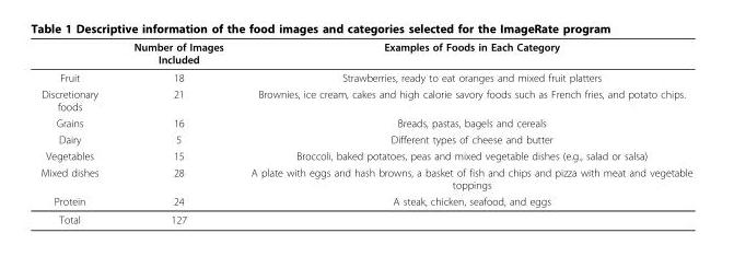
<table><thead><tr><td></td><td>Number of Images Included</td><td>Examples of Foods in Each Category</td></tr></thead><tbody><tr><td>Fruit</td><td>18</td><td>Strawberries, ready to eat oranges and mixed fruit platters</td></tr><tr><td>Discretionary foods</td><td>21</td><td>Brownies, ice cream, cakes and high calorie savory foods such as French fries, and potato chips.</td></tr><tr><td>Grains</td><td>16</td><td>Breads, pastas, bagels and cereals</td></tr><tr><td>Dairy</td><td>5</td><td>Different types of cheese and butter</td></tr><tr><td>Vegetables</td><td>15</td><td>Broccoli, baked potatoes, peas and mixed vegetable dishes (e.g., salad or salsa)</td></tr><tr><td>Mixed dishes</td><td>28</td><td>A plate with eggs and hash browns, a basket of fish and chips and pizza with meat and vegetable toppings</td></tr><tr><td>Protein</td><td>24</td><td>A steak, chicken, seafood, and eggs</td></tr><tr><td>Total</td><td>127</td><td></td></tr></tbody></table>